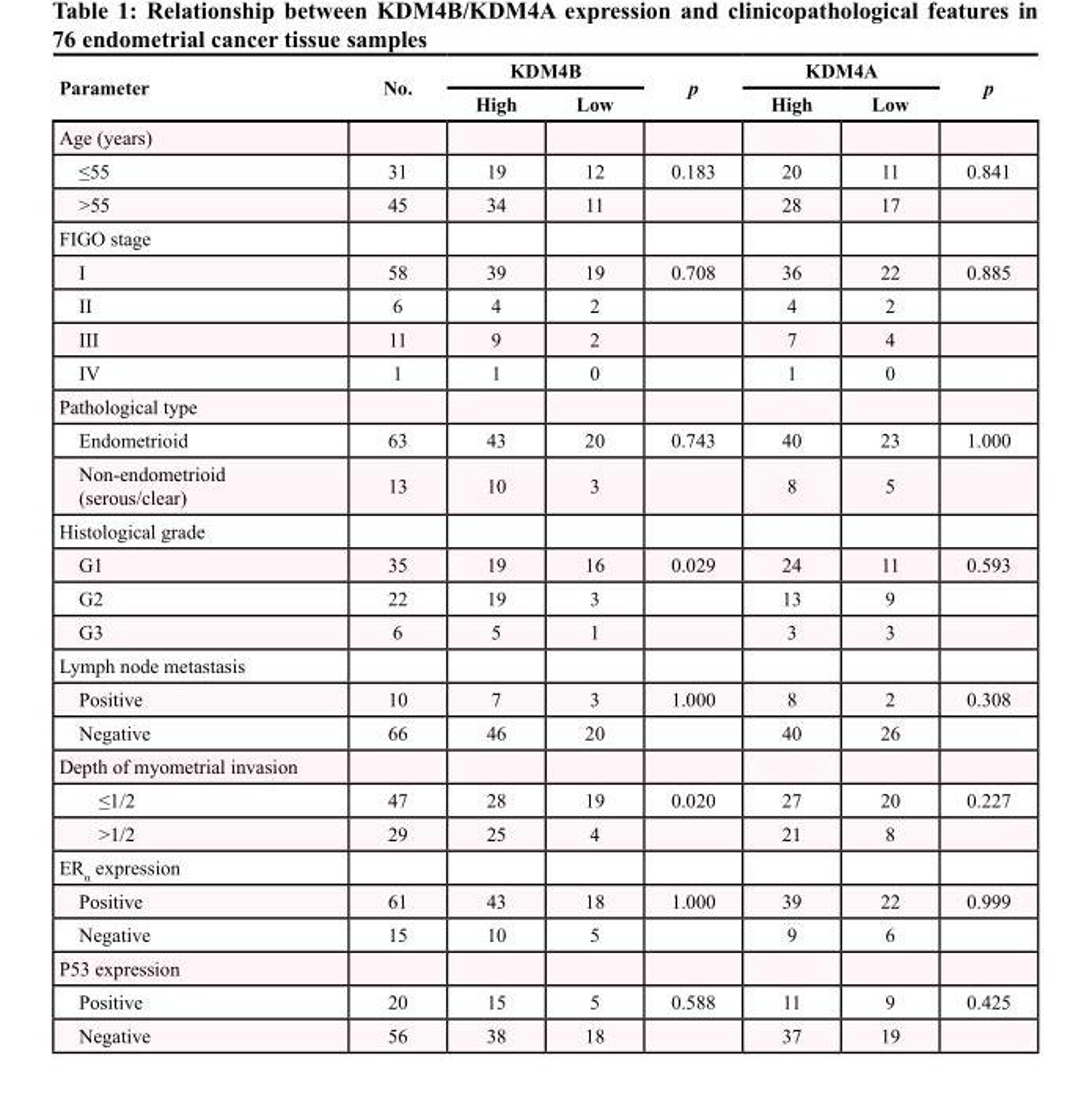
<table><thead><tr><td rowspan="2">Parameter</td><td rowspan="2">No.</td><td colspan="2">KDM4B</td><td rowspan="2">p</td><td colspan="2">KDM4A</td><td rowspan="2">p</td></tr><tr><td>High</td><td>Low</td><td>High</td><td>Low</td></tr></thead><tbody><tr><td colspan="8">Age (years)</td></tr><tr><td>≤55</td><td>31</td><td>19</td><td>12</td><td>0.183</td><td>20</td><td>11</td><td>0.841</td></tr><tr><td>&gt;55</td><td>45</td><td>34</td><td>11</td><td></td><td>28</td><td>17</td><td></td></tr><tr><td colspan="8">FIGO stage</td></tr><tr><td>I</td><td>58</td><td>39</td><td>19</td><td>0.708</td><td>36</td><td>22</td><td>0.885</td></tr><tr><td>II</td><td>6</td><td>4</td><td>2</td><td></td><td>4</td><td>2</td><td></td></tr><tr><td>III</td><td>11</td><td>9</td><td>2</td><td></td><td>7</td><td>4</td><td></td></tr><tr><td>IV</td><td>1</td><td>1</td><td>0</td><td></td><td>1</td><td>0</td><td></td></tr><tr><td colspan="8">Pathological type</td></tr><tr><td>Endometrioid</td><td>63</td><td>43</td><td>20</td><td>0.743</td><td>40</td><td>23</td><td>1.000</td></tr><tr><td>Non-endometrioid (serous/clear)</td><td>13</td><td>10</td><td>3</td><td></td><td>8</td><td>5</td><td></td></tr><tr><td colspan="8">Histological grade</td></tr><tr><td>G1</td><td>35</td><td>19</td><td>16</td><td>0.029</td><td>24</td><td>11</td><td>0.593</td></tr><tr><td>G2</td><td>22</td><td>19</td><td>3</td><td></td><td>13</td><td>9</td><td></td></tr><tr><td>G3</td><td>6</td><td>5</td><td>1</td><td></td><td>3</td><td>3</td><td></td></tr><tr><td colspan="8">Lymph node metastasis</td></tr><tr><td>Positive</td><td>10</td><td>7</td><td>3</td><td>1.000</td><td>8</td><td>2</td><td>0.308</td></tr><tr><td>Negative</td><td>66</td><td>46</td><td>20</td><td></td><td>40</td><td>26</td><td></td></tr><tr><td colspan="8">Depth of myometrial invasion</td></tr><tr><td>≤1/2</td><td>47</td><td>28</td><td>19</td><td>0.020</td><td>27</td><td>20</td><td>0.227</td></tr><tr><td>&gt;1/2</td><td>29</td><td>25</td><td>4</td><td></td><td>21</td><td>8</td><td></td></tr><tr><td colspan="8">ER<sub>α</sub> expression</td></tr><tr><td>Positive</td><td>61</td><td>43</td><td>18</td><td>1.000</td><td>39</td><td>22</td><td>0.999</td></tr><tr><td>Negative</td><td>15</td><td>10</td><td>5</td><td></td><td>9</td><td>6</td><td></td></tr><tr><td colspan="8">P53 expression</td></tr><tr><td>Positive</td><td>20</td><td>15</td><td>5</td><td>0.588</td><td>11</td><td>9</td><td>0.425</td></tr><tr><td>Negative</td><td>56</td><td>38</td><td>18</td><td></td><td>37</td><td>19</td><td></td></tr></tbody></table>